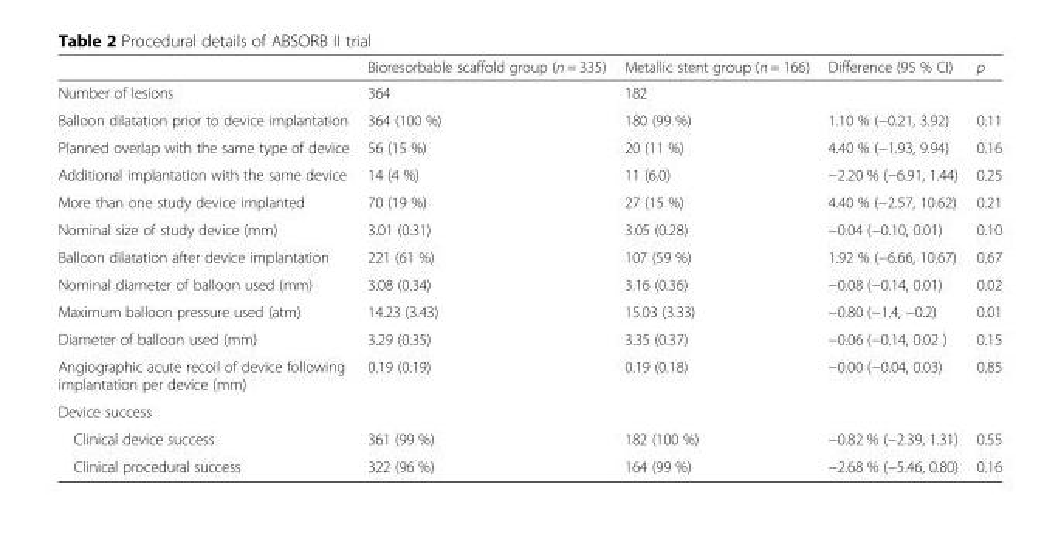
<table><thead><tr><td></td><td>Bioresorbable scaffold group (n = 335)</td><td>Metallic stent group (n = 166)</td><td>Difference (95 % CI)</td><td>p</td></tr></thead><tbody><tr><td>Number of lesions</td><td>364</td><td>182</td><td></td><td></td></tr><tr><td>Balloon dilatation prior to device implantation</td><td>364 (100 %)</td><td>180 (99 %)</td><td>1.10 % (−0.21, 3.92)</td><td>0.11</td></tr><tr><td>Planned overlap with the same type of device</td><td>56 (15 %)</td><td>20 (11 %)</td><td>4.40 % (−1.93, 9.94)</td><td>0.16</td></tr><tr><td>Additional implantation with the same device</td><td>14 (4 %)</td><td>11 (6.0)</td><td>−2.20 % (−6.91, 1.44)</td><td>0.25</td></tr><tr><td>More than one study device implanted</td><td>70 (19 %)</td><td>27 (15 %)</td><td>4.40 % (−2.57, 10.62)</td><td>0.21</td></tr><tr><td>Nominal size of study device (mm)</td><td>3.01 (0.31)</td><td>3.05 (0.28)</td><td>−0.04 (−0.10, 0.01)</td><td>0.10</td></tr><tr><td>Balloon dilatation after device implantation</td><td>221 (61 %)</td><td>107 (59 %)</td><td>1.92 % (−6.66, 10.67)</td><td>0.67</td></tr><tr><td>Nominal diameter of balloon used (mm)</td><td>3.08 (0.34)</td><td>3.16 (0.36)</td><td>−0.08 (−0.14, 0.01)</td><td>0.02</td></tr><tr><td>Maximum balloon pressure used (atm)</td><td>14.23 (3.43)</td><td>15.03 (3.33)</td><td>−0.80 (−1.4, −0.2)</td><td>0.01</td></tr><tr><td>Diameter of balloon used (mm)</td><td>3.29 (0.35)</td><td>3.35 (0.37)</td><td>−0.06 (−0.14, 0.02 )</td><td>0.15</td></tr><tr><td>Angiographic acute recoil of device following implantation per device (mm)</td><td>0.19 (0.19)</td><td>0.19 (0.18)</td><td>−0.00 (−0.04, 0.03)</td><td>0.85</td></tr><tr><td colspan="5">Device success</td></tr><tr><td>Clinical device success</td><td>361 (99 %)</td><td>182 (100 %)</td><td>−0.82 % (−2.39, 1.31)</td><td>0.55</td></tr><tr><td>Clinical procedural success</td><td>322 (96 %)</td><td>164 (99 %)</td><td>−2.68 % (−5.46, 0.80)</td><td>0.16</td></tr></tbody></table>